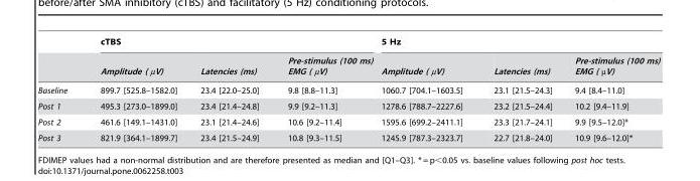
<table><thead><tr><td rowspan="2"></td><td colspan="3">cTBS</td><td colspan="3">5 Hz</td></tr><tr><td>Amplitude ( µV)</td><td>Latencies (ms)</td><td>Pre-stimulus (100 ms) EMG ( µV)</td><td>Amplitude ( µV)</td><td>Latencies (ms)</td><td>Pre-stimulus (100 ms) EMG ( µV)</td></tr></thead><tbody><tr><td>Baseline</td><td>899.7 [525.8–1582.0]</td><td>23.4 [22.0–25.0]</td><td>9.8 [8.8–11.3]</td><td>1060.7 [704.1–1603.5]</td><td>23.1 [21.5–24.3]</td><td>9.4 [8.4–11.0]</td></tr><tr><td>Post 1</td><td>495.3 [273.0–1899.0]</td><td>23.4 [21.4–24.8]</td><td>9.9 [9.2–11.3]</td><td>1278.6 [788.7–2227.6]</td><td>23.2 [21.5–24.4]</td><td>10.2 [9.4–11.9]</td></tr><tr><td>Post 2</td><td>461.6 [149.1–1431.0]</td><td>23.1 [21.4–24.6]</td><td>10.6 [9.2–11.4]</td><td>1595.6 [699.2–2411.1]</td><td>23.3 [21.7–24.1]</td><td>9.9 [9.5–12.0]*</td></tr><tr><td>Post 3</td><td>821.9 [364.1–1899.7]</td><td>23.4 [21.5–24.9]</td><td>10.8 [9.3–11.5]</td><td>1245.9 [787.3–2323.7]</td><td>22.7 [21.8–24.0]</td><td>10.9 [9.6–12.0]*</td></tr></tbody></table>